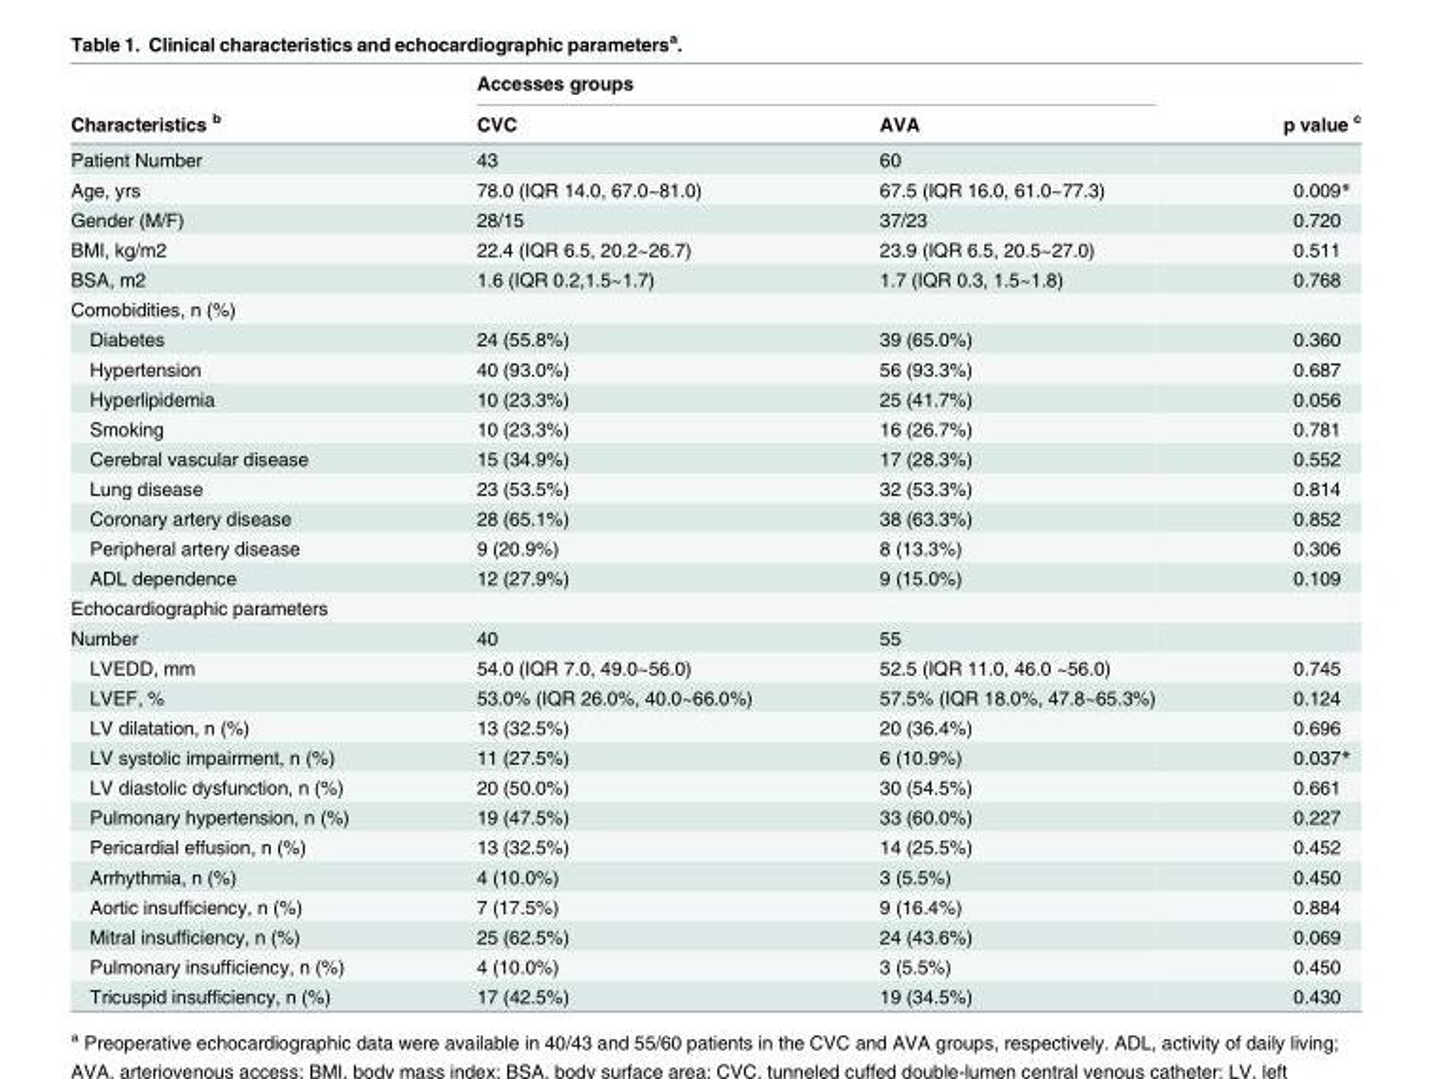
<table><thead><tr><td rowspan="2">Characteristics <sup>b</sup></td><td colspan="2">Accesses groups</td><td rowspan="2">p value <sup>c</sup></td></tr><tr><td>CVC</td><td>AVA</td></tr></thead><tbody><tr><td>Patient Number</td><td>43</td><td>60</td><td></td></tr><tr><td>Age, yrs</td><td>78.0 (IQR 14.0, 67.0~81.0)</td><td>67.5 (IQR 16.0, 61.0~77.3)</td><td>0.009*</td></tr><tr><td>Gender (M/F)</td><td>28/15</td><td>37/23</td><td>0.720</td></tr><tr><td>BMI, kg/m2</td><td>22.4 (IQR 6.5, 20.2~26.7)</td><td>23.9 (IQR 6.5, 20.5~27.0)</td><td>0.511</td></tr><tr><td>BSA, m2</td><td>1.6 (IQR 0.2,1.5~1.7)</td><td>1.7 (IQR 0.3, 1.5~1.8)</td><td>0.768</td></tr><tr><td colspan="4">Comobidities, n (%)</td></tr><tr><td>Diabetes</td><td>24 (55.8%)</td><td>39 (65.0%)</td><td>0.360</td></tr><tr><td>Hypertension</td><td>40 (93.0%)</td><td>56 (93.3%)</td><td>0.687</td></tr><tr><td>Hyperlipidemia</td><td>10 (23.3%)</td><td>25 (41.7%)</td><td>0.056</td></tr><tr><td>Smoking</td><td>10 (23.3%)</td><td>16 (26.7%)</td><td>0.781</td></tr><tr><td>Cerebral vascular disease</td><td>15 (34.9%)</td><td>17 (28.3%)</td><td>0.552</td></tr><tr><td>Lung disease</td><td>23 (53.5%)</td><td>32 (53.3%)</td><td>0.814</td></tr><tr><td>Coronary artery disease</td><td>28 (65.1%)</td><td>38 (63.3%)</td><td>0.852</td></tr><tr><td>Peripheral artery disease</td><td>9 (20.9%)</td><td>8 (13.3%)</td><td>0.306</td></tr><tr><td>ADL dependence</td><td>12 (27.9%)</td><td>9 (15.0%)</td><td>0.109</td></tr><tr><td colspan="4">Echocardiographic parameters</td></tr><tr><td>Number</td><td>40</td><td>55</td><td></td></tr><tr><td>LVEDD, mm</td><td>54.0 (IQR 7.0, 49.0~56.0)</td><td>52.5 (IQR 11.0, 46.0 ~56.0)</td><td>0.745</td></tr><tr><td>LVEF, %</td><td>53.0% (IQR 26.0%, 40.0~66.0%)</td><td>57.5% (IQR 18.0%, 47.8~65.3%)</td><td>0.124</td></tr><tr><td>LV dilatation, n (%)</td><td>13 (32.5%)</td><td>20 (36.4%)</td><td>0.696</td></tr><tr><td>LV systolic impairment, n (%)</td><td>11 (27.5%)</td><td>6 (10.9%)</td><td>0.037*</td></tr><tr><td>LV diastolic dysfunction, n (%)</td><td>20 (50.0%)</td><td>30 (54.5%)</td><td>0.661</td></tr><tr><td>Pulmonary hypertension, n (%)</td><td>19 (47.5%)</td><td>33 (60.0%)</td><td>0.227</td></tr><tr><td>Pericardial effusion, n (%)</td><td>13 (32.5%)</td><td>14 (25.5%)</td><td>0.452</td></tr><tr><td>Arrhythmia, n (%)</td><td>4 (10.0%)</td><td>3 (5.5%)</td><td>0.450</td></tr><tr><td>Aortic insufficiency, n (%)</td><td>7 (17.5%)</td><td>9 (16.4%)</td><td>0.884</td></tr><tr><td>Mitral insufficiency, n (%)</td><td>25 (62.5%)</td><td>24 (43.6%)</td><td>0.069</td></tr><tr><td>Pulmonary insufficiency, n (%)</td><td>4 (10.0%)</td><td>3 (5.5%)</td><td>0.450</td></tr><tr><td>Tricuspid insufficiency, n (%)</td><td>17 (42.5%)</td><td>19 (34.5%)</td><td>0.430</td></tr></tbody></table>